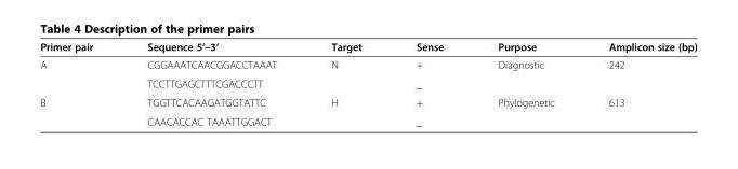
<table><thead><tr><td>Primer pair</td><td>Sequence 5’–3’</td><td>Target</td><td>Sense</td><td>Purpose</td><td>Amplicon size (bp)</td></tr></thead><tbody><tr><td rowspan="2">A</td><td>CGGAAATCAACGGACCTAAAT</td><td>N</td><td>+</td><td>Diagnostic</td><td>242</td></tr><tr><td>TCCTTGAGCTTTCGACCCTT</td><td></td><td>_</td><td></td><td></td></tr><tr><td rowspan="2">B</td><td>TGGTTCACAAGATGGTATTC</td><td>H</td><td>+</td><td>Phylogenetic</td><td>613</td></tr><tr><td>CAACACCAC TAAATTGGACT</td><td></td><td>_</td><td></td><td></td></tr></tbody></table>